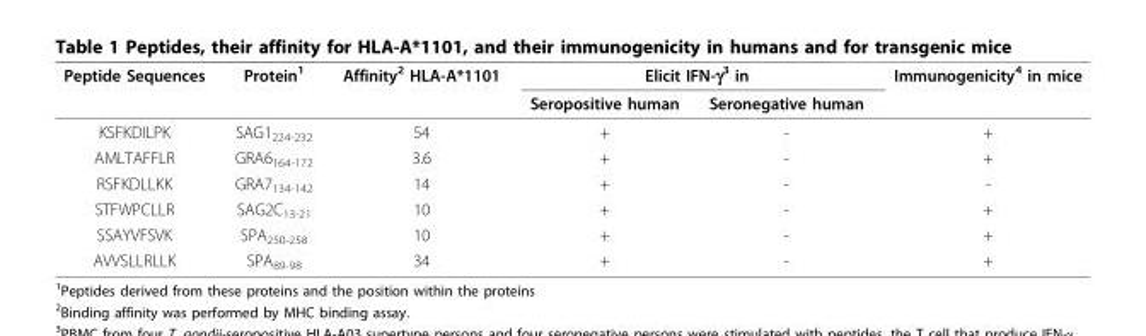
<table><thead><tr><td rowspan="2">Peptide Sequences</td><td rowspan="2">Protein<sup>1</sup></td><td rowspan="2">Affinity<sup>2</sup> HLA-A*1101</td><td colspan="2">Elicit IFN-γ<sup>3</sup> in</td><td rowspan="2">Immunogenicity<sup>4</sup> in mice</td></tr><tr><td>Seropositive human</td><td>Seronegative human</td></tr></thead><tbody><tr><td>KSFKDILPK</td><td>SAG1<sub>224-232</sub></td><td>54</td><td>+</td><td>-</td><td>+</td></tr><tr><td>AMLTAFFLR</td><td>GRA6<sub>164-172</sub></td><td>3.6</td><td>+</td><td>-</td><td>+</td></tr><tr><td>RSFKDLLKK</td><td>GRA7<sub>134-142</sub></td><td>14</td><td>+</td><td>-</td><td>-</td></tr><tr><td>STFWPCLLR</td><td>SAG2C<sub>13-21</sub></td><td>10</td><td>+</td><td>-</td><td>+</td></tr><tr><td>SSAYVFSVK</td><td>SPA<sub>250-258</sub></td><td>10</td><td>+</td><td>-</td><td>+</td></tr><tr><td>AVVSLLRLLK</td><td>SPA<sub>89-98</sub></td><td>34</td><td>+</td><td>-</td><td>+</td></tr></tbody></table>